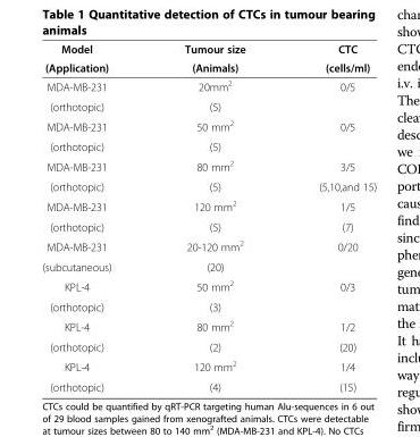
<table><thead><tr><td rowspan="2">Model (Application)</td><td rowspan="2">Tumour size (Animals)</td><td rowspan="2">CTC (cells/ml)</td></tr><tr></tr></thead><tbody><tr><td>MDA-MB-231</td><td>20mm<sup>2</sup></td><td>0/5</td></tr><tr><td>(orthotopic)</td><td>(5)</td><td></td></tr><tr><td>MDA-MB-231</td><td>50 mm<sup>2</sup></td><td>0/5</td></tr><tr><td>(orthotopic)</td><td>(5)</td><td></td></tr><tr><td>MDA-MB-231</td><td>80 mm<sup>2</sup></td><td>3/5</td></tr><tr><td>(orthotopic)</td><td>(5)</td><td>(5,10,and 15)</td></tr><tr><td>MDA-MB-231</td><td>120 mm<sup>2</sup></td><td>1/5</td></tr><tr><td>(orthotopic)</td><td>(5)</td><td>(7)</td></tr><tr><td>MDA-MB-231</td><td>20-120 mm<sup>2</sup></td><td>0/20</td></tr><tr><td>(subcutaneous)</td><td>(20)</td><td></td></tr><tr><td>KPL-4</td><td>50 mm<sup>2</sup></td><td>0/3</td></tr><tr><td>(orthotopic)</td><td>(3)</td><td></td></tr><tr><td>KPL-4</td><td>80 mm<sup>2</sup></td><td>1/2</td></tr><tr><td>(orthotopic)</td><td>(2)</td><td>(20)</td></tr><tr><td>KPL-4</td><td>120 mm<sup>2</sup></td><td>1/4</td></tr><tr><td>(orthotopic)</td><td>(4)</td><td>(15)</td></tr></tbody></table>